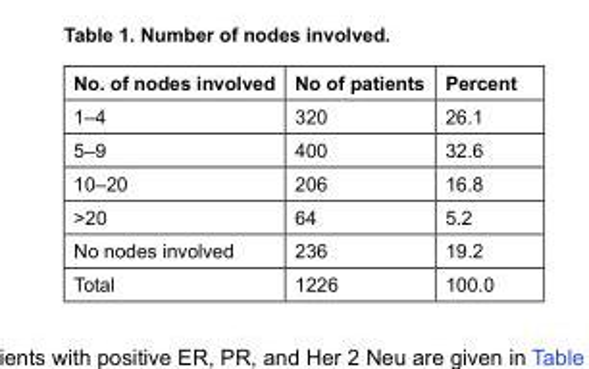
<table><thead><tr><td>No. of nodes involved</td><td>No of patients</td><td>Percent</td></tr></thead><tbody><tr><td>1–4</td><td>320</td><td>26.1</td></tr><tr><td>5–9</td><td>400</td><td>32.6</td></tr><tr><td>10–20</td><td>206</td><td>16.8</td></tr><tr><td>&gt;20</td><td>64</td><td>5.2</td></tr><tr><td>No nodes involved</td><td>236</td><td>19.2</td></tr><tr><td>Total</td><td>1226</td><td>100.0</td></tr></tbody></table>